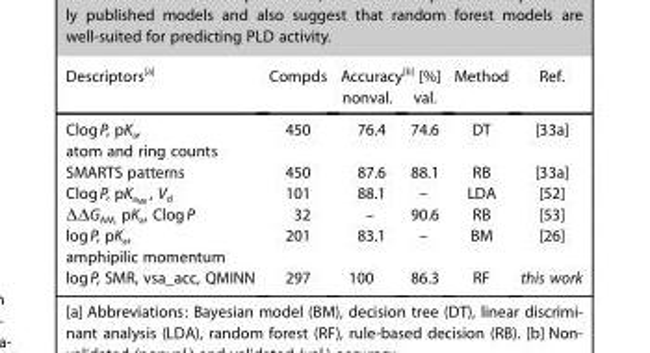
<table><thead><tr><td rowspan="2">Descriptors[a]</td><td rowspan="2">Compds</td><td colspan="2">Accuracy[b] [%]</td><td rowspan="2">Method</td><td rowspan="2">Ref.</td></tr><tr><td>nonval.</td><td>val.</td></tr></thead><tbody><tr><td>ClogP, pK<sub>a</sub>, atom and ring counts</td><td>450</td><td>76.4</td><td>74.6</td><td>DT</td><td>[33a]</td></tr><tr><td>SMARTS patterns</td><td>450</td><td>87.6</td><td>88.1</td><td>RB</td><td>[33a]</td></tr><tr><td>ClogP, pKaMB, Vd</td><td>101</td><td>88.1</td><td>–</td><td>LDA</td><td>[52]</td></tr><tr><td>ΔΔG<sub>AM,</sub> pK<sub>a</sub>, ClogP</td><td>32</td><td>–</td><td>90.6</td><td>RB</td><td>[53]</td></tr><tr><td>logP, pK<sub>a</sub>, amphipilic momentum</td><td>201</td><td>83.1</td><td>–</td><td>BM</td><td>[26]</td></tr><tr><td>logP, SMR, vsa_acc, QMINN</td><td>297</td><td>100</td><td>86.3</td><td>RF</td><td>this work</td></tr></tbody></table>